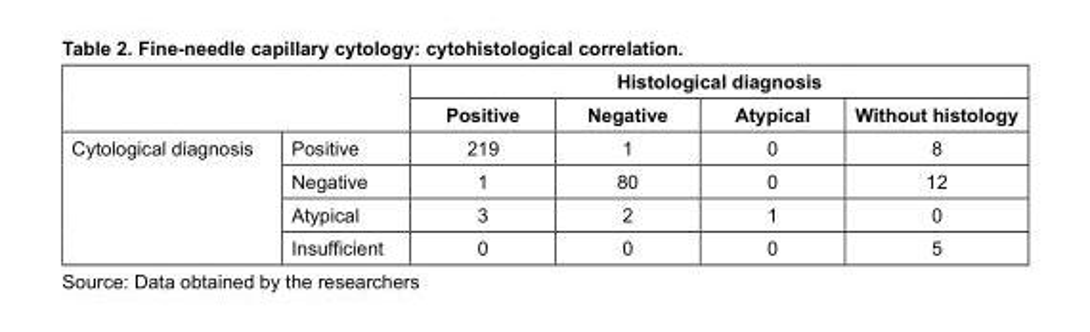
<table><thead><tr><td rowspan="2"></td><td rowspan="2"></td><td colspan="4">Histological diagnosis</td></tr><tr><td>Positive</td><td>Negative</td><td>Atypical</td><td>Without histology</td></tr></thead><tbody><tr><td rowspan="4">Cytological diagnosis</td><td>Positive</td><td>219</td><td>1</td><td>0</td><td>8</td></tr><tr><td>Negative</td><td>1</td><td>80</td><td>0</td><td>12</td></tr><tr><td>Atypical</td><td>3</td><td>2</td><td>1</td><td>0</td></tr><tr><td>Insufficient</td><td>0</td><td>0</td><td>0</td><td>5</td></tr></tbody></table>